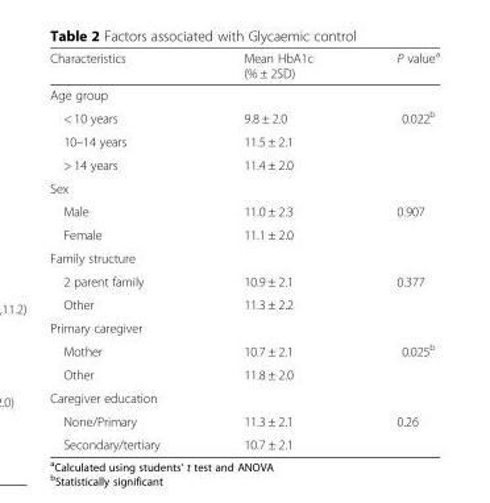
<table><thead><tr><td>Characteristics</td><td>Mean HbA1c (% ± 2SD)</td><td>P value<sup>a</sup></td></tr></thead><tbody><tr><td colspan="3">Age group</td></tr><tr><td>&lt; 10 years</td><td>9.8 ± 2.0</td><td rowspan="3">0.022<sup>b</sup></td></tr><tr><td>10–14 years</td><td>11.5 ± 2.1</td></tr><tr><td>&gt; 14 years</td><td>11.4 ± 2.0</td></tr><tr><td colspan="3">Sex</td></tr><tr><td>Male</td><td>11.0 ± 2.3</td><td rowspan="2">0.907</td></tr><tr><td>Female</td><td>11.1 ± 2.0</td></tr><tr><td colspan="3">Family structure</td></tr><tr><td>2 parent family</td><td>10.9 ± 2.1</td><td rowspan="2">0.377</td></tr><tr><td>Other</td><td>11.3 ± 2.2</td></tr><tr><td colspan="3">Primary caregiver</td></tr><tr><td>Mother</td><td>10.7 ± 2.1</td><td rowspan="2">0.025<sup>b</sup></td></tr><tr><td>Other</td><td>11.8 ± 2.0</td></tr><tr><td colspan="3">Caregiver education</td></tr><tr><td>None/Primary</td><td>11.3 ± 2.1</td><td rowspan="2">0.26</td></tr><tr><td>Secondary/tertiary</td><td>10.7 ± 2.1</td></tr></tbody></table>